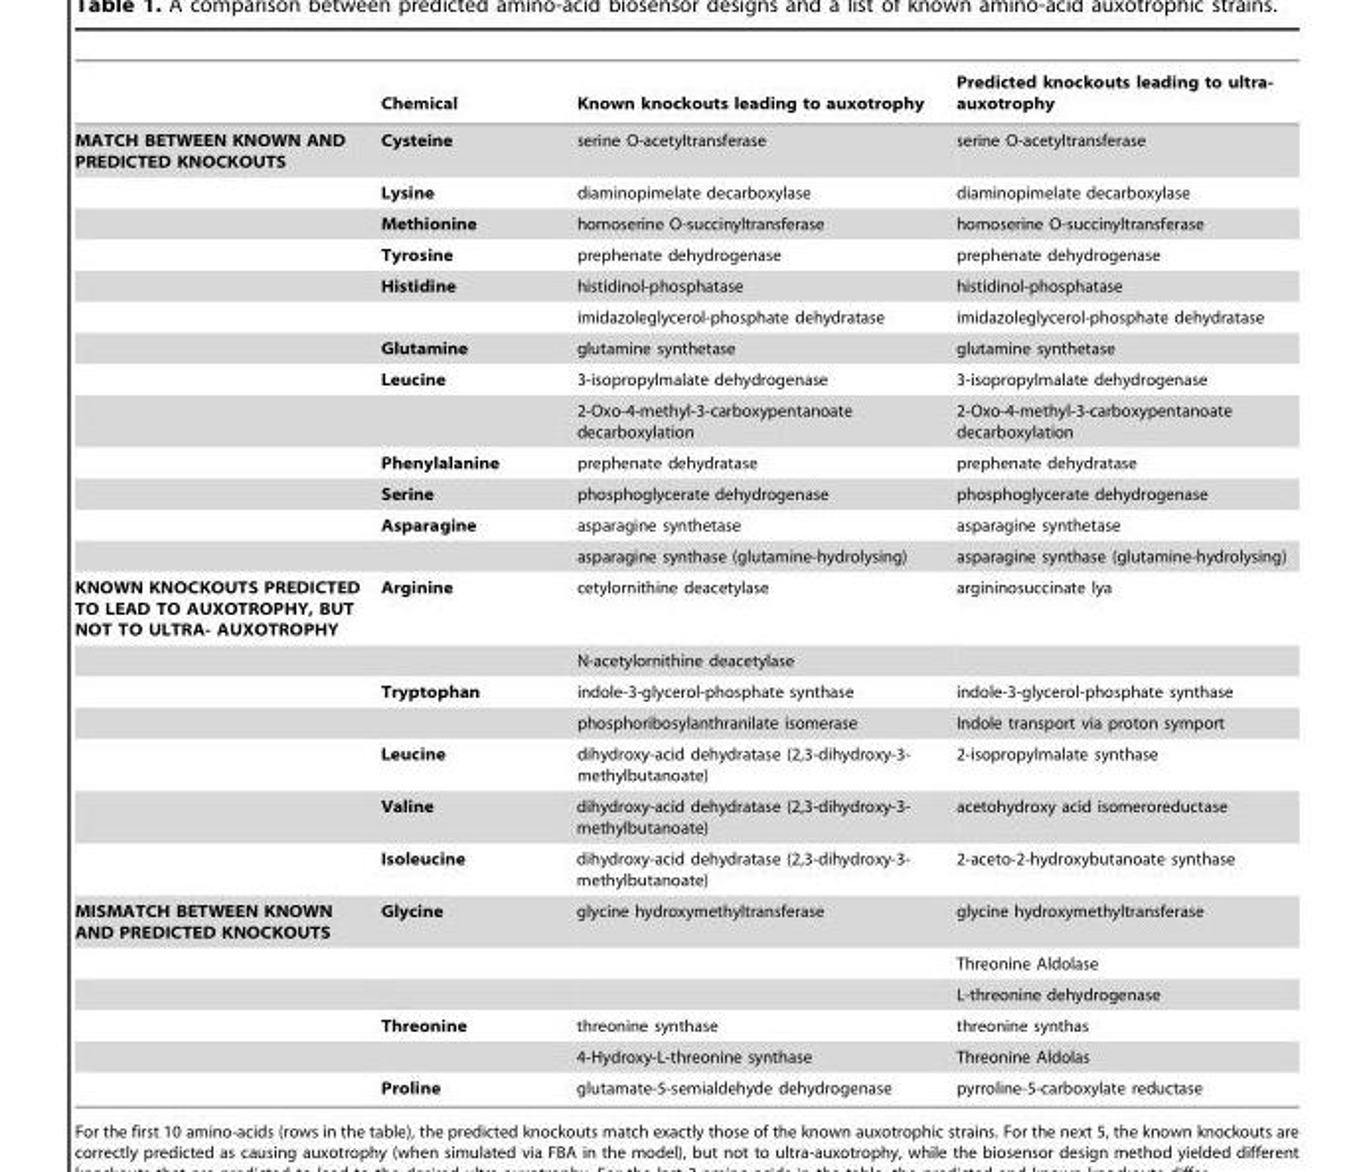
<table><thead><tr><td></td><td>Chemical</td><td>Known knockouts leading to auxotrophy</td><td>Predicted knockouts leading to ultra- auxotrophy</td></tr></thead><tbody><tr><td rowspan="13">MATCH BETWEEN KNOWN AND PREDICTED KNOCKOUTS</td><td>Cysteine</td><td>serine O-acetyltransferase</td><td>serine O-acetyltransferase</td></tr><tr><td>Lysine</td><td>diaminopimelate decarboxylase</td><td>diaminopimelate decarboxylase</td></tr><tr><td>Methionine</td><td>homoserine O-succinyltransferase</td><td>homoserine O-succinyltransferase</td></tr><tr><td>Tyrosine</td><td>prephenate dehydrogenase</td><td>prephenate dehydrogenase</td></tr><tr><td>Histidine</td><td>histidinol-phosphatase</td><td>histidinol-phosphatase</td></tr><tr><td></td><td>imidazoleglycerol-phosphate dehydratase</td><td>imidazoleglycerol-phosphate dehydratase</td></tr><tr><td>Glutamine</td><td>glutamine synthetase</td><td>glutamine synthetase</td></tr><tr><td>Leucine</td><td>3-isopropylmalate dehydrogenase</td><td>3-isopropylmalate dehydrogenase</td></tr><tr><td></td><td>2-Oxo-4-methyl-3-carboxypentanoate decarboxylation</td><td>2-Oxo-4-methyl-3-carboxypentanoate decarboxylation</td></tr><tr><td>Phenylalanine</td><td>prephenate dehydratase</td><td>prephenate dehydratase</td></tr><tr><td>Serine</td><td>phosphoglycerate dehydrogenase</td><td>phosphoglycerate dehydrogenase</td></tr><tr><td>Asparagine</td><td>asparagine synthetase</td><td>asparagine synthetase</td></tr><tr><td></td><td>asparagine synthase (glutamine-hydrolysing)</td><td>asparagine synthase (glutamine-hydrolysing)</td></tr><tr><td rowspan="7">KNOWN KNOCKOUTS PREDICTED TO LEAD TO AUXOTROPHY, BUT NOT TO ULTRA- AUXOTROPHY</td><td>Arginine</td><td>cetylornithine deacetylase</td><td>argininosuccinate lya</td></tr><tr><td></td><td>N-acetylornithine deacetylase</td><td></td></tr><tr><td>Tryptophan</td><td>indole-3-glycerol-phosphate synthase</td><td>indole-3-glycerol-phosphate synthase</td></tr><tr><td></td><td>phosphoribosylanthranilate isomerase</td><td>Indole transport via proton symport</td></tr><tr><td>Leucine</td><td>dihydroxy-acid dehydratase (2,3-dihydroxy-3- methylbutanoate)</td><td>2-isopropylmalate synthase</td></tr><tr><td>Valine</td><td>dihydroxy-acid dehydratase (2,3-dihydroxy-3- methylbutanoate)</td><td>acetohydroxy acid isomeroreductase</td></tr><tr><td>Isoleucine</td><td>dihydroxy-acid dehydratase (2,3-dihydroxy-3- methylbutanoate)</td><td>2-aceto-2-hydroxybutanoate synthase</td></tr><tr><td rowspan="6">MISMATCH BETWEEN KNOWN AND PREDICTED KNOCKOUTS</td><td>Glycine</td><td>glycine hydroxymethyltransferase</td><td>glycine hydroxymethyltransferase</td></tr><tr><td></td><td></td><td>Threonine Aldolase</td></tr><tr><td></td><td></td><td>L-threonine dehydrogenase</td></tr><tr><td>Threonine</td><td>threonine synthase</td><td>threonine synthas</td></tr><tr><td></td><td>4-Hydroxy-L-threonine synthase</td><td>Threonine Aldolas</td></tr><tr><td>Proline</td><td>glutamate-5-semialdehyde dehydrogenase</td><td>pyrroline-5-carboxylate reductase</td></tr></tbody></table>